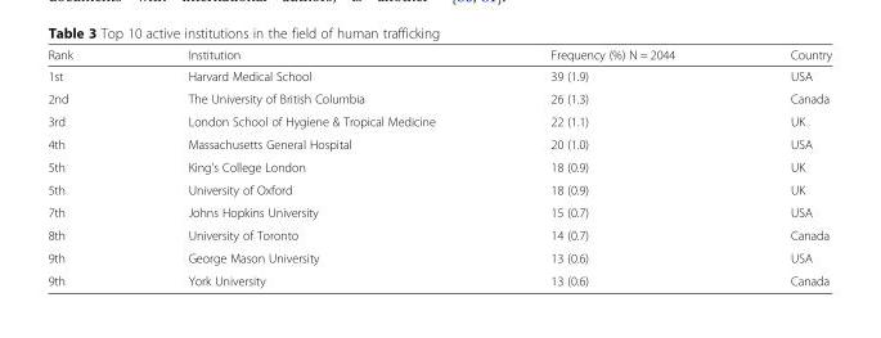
<table><thead><tr><td>Rank</td><td>Institution</td><td>Frequency (%) N = 2044</td><td>Country</td></tr></thead><tbody><tr><td>1st</td><td>Harvard Medical School</td><td>39 (1.9)</td><td>USA</td></tr><tr><td>2nd</td><td>The University of British Columbia</td><td>26 (1.3)</td><td>Canada</td></tr><tr><td>3rd</td><td>London School of Hygiene &amp; Tropical Medicine</td><td>22 (1.1)</td><td>UK</td></tr><tr><td>4th</td><td>Massachusetts General Hospital</td><td>20 (1.0)</td><td>USA</td></tr><tr><td>5th</td><td>King’s College London</td><td>18 (0.9)</td><td>UK</td></tr><tr><td>5th</td><td>University of Oxford</td><td>18 (0.9)</td><td>UK</td></tr><tr><td>7th</td><td>Johns Hopkins University</td><td>15 (0.7)</td><td>USA</td></tr><tr><td>8th</td><td>University of Toronto</td><td>14 (0.7)</td><td>Canada</td></tr><tr><td>9th</td><td>George Mason University</td><td>13 (0.6)</td><td>USA</td></tr><tr><td>9th</td><td>York University</td><td>13 (0.6)</td><td>Canada</td></tr></tbody></table>